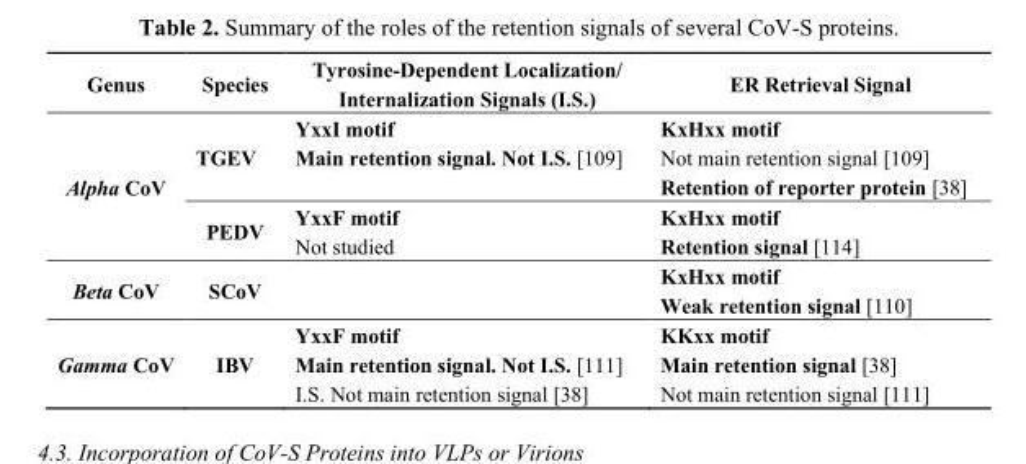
<table><thead><tr><td>Genus</td><td>Species</td><td>Tyrosine-Dependent Localization/ Internalization Signals (I.S.)</td><td>ER Retrieval Signal</td></tr></thead><tbody><tr><td rowspan="2">Alpha CoV</td><td>TGEV</td><td>YxxI motif Main retention signal. Not I.S. [109]</td><td>KxHxx motif Not main retention signal [109] Retention of reporter protein [38]</td></tr><tr><td>PEDV</td><td>YxxF motif Not studied</td><td>KxHxx motif Retention signal [114]</td></tr><tr><td>Beta CoV</td><td>SCoV</td><td></td><td>KxHxx motif Weak retention signal [110]</td></tr><tr><td>Gamma CoV</td><td>IBV</td><td>YxxF motif Main retention signal. Not I.S. [111] I.S. Not main retention signal [38]</td><td>KKxx motif Main retention signal [38] Not main retention signal [111]</td></tr></tbody></table>